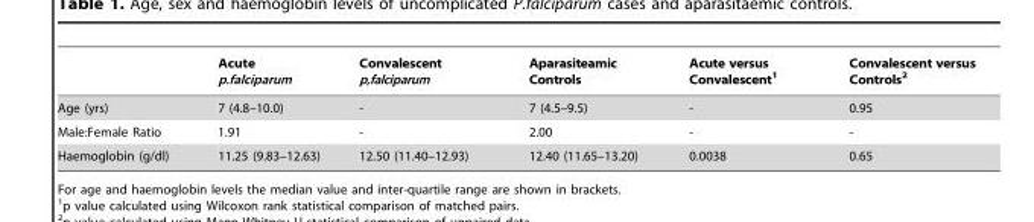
<table><thead><tr><td></td><td>Acute p.falciparum</td><td>Convalescent p,falciparum</td><td>Aparasiteamic Controls</td><td>Acute versus Convalescent<sup>1</sup></td><td>Convalescent versus Controls<sup>2</sup></td></tr></thead><tbody><tr><td>Age (yrs)</td><td>7 (4.8–10.0)</td><td>-</td><td>7 (4.5–9.5)</td><td>-</td><td>0.95</td></tr><tr><td>Male:Female Ratio</td><td>1.91</td><td>-</td><td>2.00</td><td>-</td><td>-</td></tr><tr><td>Haemoglobin (g/dl)</td><td>11.25 (9.83–12.63)</td><td>12.50 (11.40–12.93)</td><td>12.40 (11.65–13.20)</td><td>0.0038</td><td>0.65</td></tr></tbody></table>